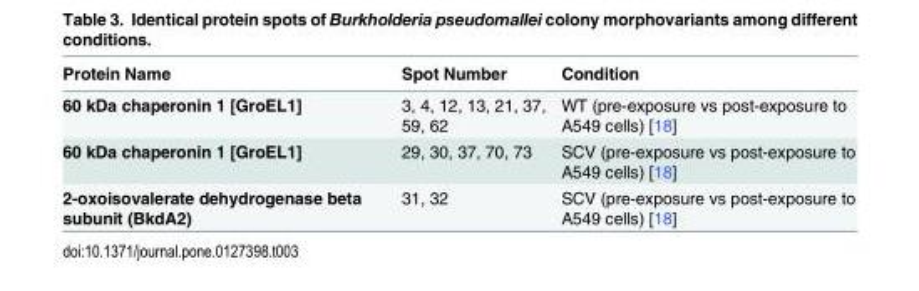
<table><thead><tr><td>Protein Name</td><td>Spot Number</td><td>Condition</td></tr></thead><tbody><tr><td>60 kDa chaperonin 1 [GroEL1]</td><td>3, 4, 12, 13, 21, 37, 59, 62</td><td>WT (pre-exposure vs post-exposure to A549 cells) [18]</td></tr><tr><td>60 kDa chaperonin 1 [GroEL1]</td><td>29, 30, 37, 70, 73</td><td>SCV (pre-exposure vs post-exposure to A549 cells) [18]</td></tr><tr><td>2-oxoisovalerate dehydrogenase beta subunit (BkdA2)</td><td>31, 32</td><td>SCV (pre-exposure vs post-exposure to A549 cells) [18]</td></tr></tbody></table>